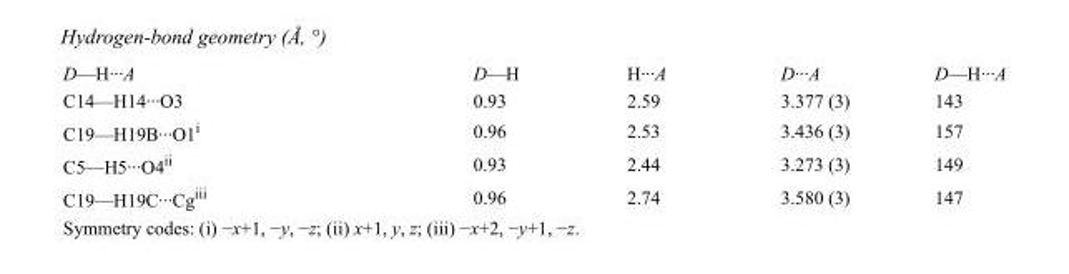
<table><tbody><tr><td>D—H···A</td><td>D—H</td><td>H···A</td><td>D···A</td><td>D—H···A</td></tr><tr><td>C14—H14···O3</td><td>0.93</td><td>2.59</td><td>3.377 (3)</td><td>143</td></tr><tr><td>C19—H19B···O1<sup>i</sup></td><td>0.96</td><td>2.53</td><td>3.436 (3)</td><td>157</td></tr><tr><td>C5—H5···O4<sup>ii</sup></td><td>0.93</td><td>2.44</td><td>3.273 (3)</td><td>149</td></tr><tr><td>C19—H19C···Cg<sup>iii</sup></td><td>0.96</td><td>2.74</td><td>3.580 (3)</td><td>147</td></tr></tbody></table>